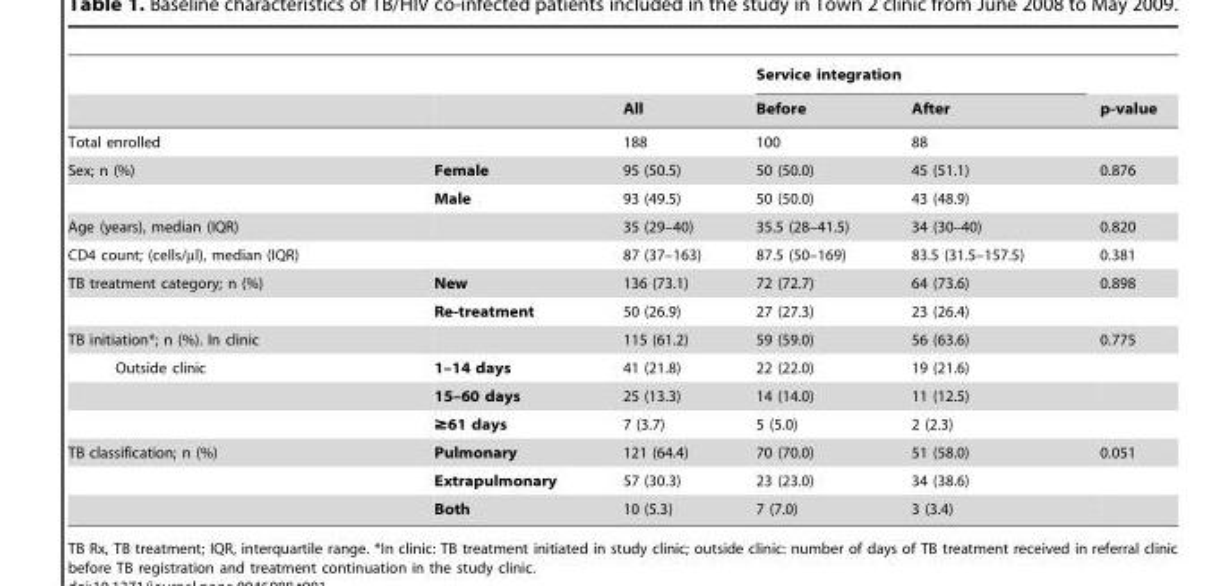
<table><thead><tr><td rowspan="2"></td><td rowspan="2"></td><td rowspan="2">All</td><td colspan="2">Service integration</td><td rowspan="2">p-value</td></tr><tr><td>Before</td><td>After</td></tr></thead><tbody><tr><td>Total enrolled</td><td></td><td>188</td><td>100</td><td>88</td><td></td></tr><tr><td rowspan="2">Sex; n (%)</td><td>Female</td><td>95 (50.5)</td><td>50 (50.0)</td><td>45 (51.1)</td><td>0.876</td></tr><tr><td>Male</td><td>93 (49.5)</td><td>50 (50.0)</td><td>43 (48.9)</td><td></td></tr><tr><td>Age (years), median (IQR)</td><td></td><td>35 (29–40)</td><td>35.5 (28–41.5)</td><td>34 (30–40)</td><td>0.820</td></tr><tr><td>CD4 count; (cells/µl), median (IQR)</td><td></td><td>87 (37–163)</td><td>87.5 (50–169)</td><td>83.5 (31.5–157.5)</td><td>0.381</td></tr><tr><td rowspan="2">TB treatment category; n (%)</td><td>New</td><td>136 (73.1)</td><td>72 (72.7)</td><td>64 (73.6)</td><td>0.898</td></tr><tr><td>Re-treatment</td><td>50 (26.9)</td><td>27 (27.3)</td><td>23 (26.4)</td><td></td></tr><tr><td>TB initiation*; n (%). In clinic</td><td></td><td>115 (61.2)</td><td>59 (59.0)</td><td>56 (63.6)</td><td>0.775</td></tr><tr><td rowspan="3">Outside clinic</td><td>1–14 days</td><td>41 (21.8)</td><td>22 (22.0)</td><td>19 (21.6)</td><td></td></tr><tr><td>15–60 days</td><td>25 (13.3)</td><td>14 (14.0)</td><td>11 (12.5)</td><td></td></tr><tr><td>≥61 days</td><td>7 (3.7)</td><td>5 (5.0)</td><td>2 (2.3)</td><td></td></tr><tr><td rowspan="3">TB classification; n (%)</td><td>Pulmonary</td><td>121 (64.4)</td><td>70 (70.0)</td><td>51 (58.0)</td><td>0.051</td></tr><tr><td>Extrapulmonary</td><td>57 (30.3)</td><td>23 (23.0)</td><td>34 (38.6)</td><td></td></tr><tr><td>Both</td><td>10 (5.3)</td><td>7 (7.0)</td><td>3 (3.4)</td><td></td></tr></tbody></table>